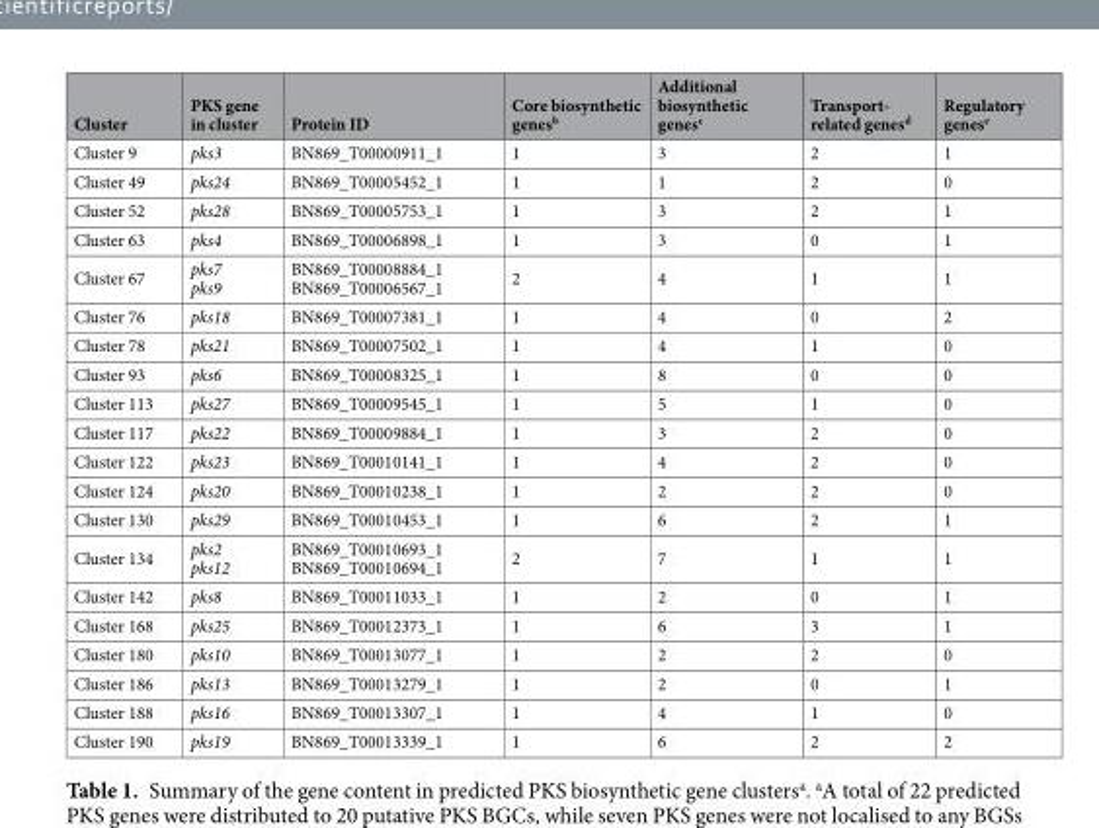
<table><thead><tr><td>Cluster</td><td>PKS gene in cluster</td><td>Protein ID</td><td>Core biosynthetic genes<sup>b</sup></td><td>Additional biosynthetic genes<sup>c</sup></td><td>Transport- related genes<sup>d</sup></td><td>Regulatory genes<sup>e</sup></td></tr></thead><tbody><tr><td>Cluster 9</td><td>pks3</td><td>BN869_T00000911_1</td><td>1</td><td>3</td><td>2</td><td>1</td></tr><tr><td>Cluster 49</td><td>pks24</td><td>BN869_T00005452_1</td><td>1</td><td>1</td><td>2</td><td>0</td></tr><tr><td>Cluster 52</td><td>pks28</td><td>BN869_T00005753_1</td><td>1</td><td>3</td><td>2</td><td>1</td></tr><tr><td>Cluster 63</td><td>pks4</td><td>BN869_T00006898_1</td><td>1</td><td>3</td><td>0</td><td>1</td></tr><tr><td>Cluster 67</td><td>pks7 pks9</td><td>BN869_T00008884_1 BN869_T00006567_1</td><td>2</td><td>4</td><td>1</td><td>1</td></tr><tr><td>Cluster 76</td><td>pks18</td><td>BN869_T00007381_1</td><td>1</td><td>4</td><td>0</td><td>2</td></tr><tr><td>Cluster 78</td><td>pks21</td><td>BN869_T00007502_1</td><td>1</td><td>4</td><td>1</td><td>0</td></tr><tr><td>Cluster 93</td><td>pks6</td><td>BN869_T00008325_1</td><td>1</td><td>8</td><td>0</td><td>0</td></tr><tr><td>Cluster 113</td><td>pks27</td><td>BN869_T00009545_1</td><td>1</td><td>5</td><td>1</td><td>0</td></tr><tr><td>Cluster 117</td><td>pks22</td><td>BN869_T00009884_1</td><td>1</td><td>3</td><td>2</td><td>0</td></tr><tr><td>Cluster 122</td><td>pks23</td><td>BN869_T00010141_1</td><td>1</td><td>4</td><td>2</td><td>0</td></tr><tr><td>Cluster 124</td><td>pks20</td><td>BN869_T00010238_1</td><td>1</td><td>2</td><td>2</td><td>0</td></tr><tr><td>Cluster 130</td><td>pks29</td><td>BN869_T00010453_1</td><td>1</td><td>6</td><td>2</td><td>1</td></tr><tr><td>Cluster 134</td><td>pks2 pks12</td><td>BN869_T00010693_1 BN869_T00010694_1</td><td>2</td><td>7</td><td>1</td><td>1</td></tr><tr><td>Cluster 142</td><td>pks8</td><td>BN869_T00011033_1</td><td>1</td><td>2</td><td>0</td><td>1</td></tr><tr><td>Cluster 168</td><td>pks25</td><td>BN869_T00012373_1</td><td>1</td><td>6</td><td>3</td><td>1</td></tr><tr><td>Cluster 180</td><td>pks10</td><td>BN869_T00013077_1</td><td>1</td><td>2</td><td>2</td><td>0</td></tr><tr><td>Cluster 186</td><td>pks13</td><td>BN869_T00013279_1</td><td>1</td><td>2</td><td>0</td><td>1</td></tr><tr><td>Cluster 188</td><td>pks16</td><td>BN869_T00013307_1</td><td>1</td><td>4</td><td>1</td><td>0</td></tr><tr><td>Cluster 190</td><td>pks19</td><td>BN869_T00013339_1</td><td>1</td><td>6</td><td>2</td><td>2</td></tr></tbody></table>